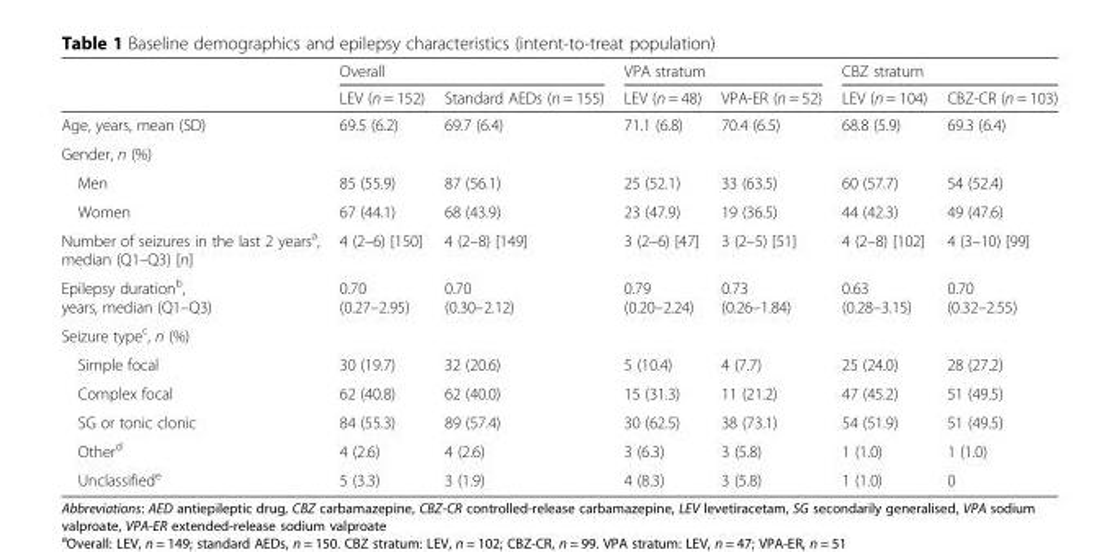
<table><thead><tr><td rowspan="2"></td><td colspan="2">Overall</td><td colspan="2">VPA stratum</td><td colspan="2">CBZ stratum</td></tr><tr><td>LEV (n = 152)</td><td>Standard AEDs (n = 155)</td><td>LEV (n = 48)</td><td>VPA-ER (n = 52)</td><td>LEV (n = 104)</td><td>CBZ-CR (n = 103)</td></tr></thead><tbody><tr><td>Age, years, mean (SD)</td><td>69.5 (6.2)</td><td>69.7 (6.4)</td><td>71.1 (6.8)</td><td>70.4 (6.5)</td><td>68.8 (5.9)</td><td>69.3 (6.4)</td></tr><tr><td colspan="7">Gender, n (%)</td></tr><tr><td>Men</td><td>85 (55.9)</td><td>87 (56.1)</td><td>25 (52.1)</td><td>33 (63.5)</td><td>60 (57.7)</td><td>54 (52.4)</td></tr><tr><td>Women</td><td>67 (44.1)</td><td>68 (43.9)</td><td>23 (47.9)</td><td>19 (36.5)</td><td>44 (42.3)</td><td>49 (47.6)</td></tr><tr><td>Number of seizures in the last 2 years<sup>a</sup>, median (Q1–Q3) [n]</td><td>4 (2–6) [150]</td><td>4 (2–8) [149]</td><td>3 (2–6) [47]</td><td>3 (2–5) [51]</td><td>4 (2–8) [102]</td><td>4 (3–10) [99]</td></tr><tr><td>Epilepsy duration<sup>b</sup>, years, median (Q1–Q3)</td><td>0.70 (0.27–2.95)</td><td>0.70 (0.30–2.12)</td><td>0.79 (0.20–2.24)</td><td>0.73 (0.26–1.84)</td><td>0.63 (0.28–3.15)</td><td>0.70 (0.32–2.55)</td></tr><tr><td colspan="7">Seizure type<sup>c</sup>, n (%)</td></tr><tr><td>Simple focal</td><td>30 (19.7)</td><td>32 (20.6)</td><td>5 (10.4)</td><td>4 (7.7)</td><td>25 (24.0)</td><td>28 (27.2)</td></tr><tr><td>Complex focal</td><td>62 (40.8)</td><td>62 (40.0)</td><td>15 (31.3)</td><td>11 (21.2)</td><td>47 (45.2)</td><td>51 (49.5)</td></tr><tr><td>SG or tonic clonic</td><td>84 (55.3)</td><td>89 (57.4)</td><td>30 (62.5)</td><td>38 (73.1)</td><td>54 (51.9)</td><td>51 (49.5)</td></tr><tr><td>Other<sup>d</sup></td><td>4 (2.6)</td><td>4 (2.6)</td><td>3 (6.3)</td><td>3 (5.8)</td><td>1 (1.0)</td><td>1 (1.0)</td></tr><tr><td>Unclassified<sup>e</sup></td><td>5 (3.3)</td><td>3 (1.9)</td><td>4 (8.3)</td><td>3 (5.8)</td><td>1 (1.0)</td><td>0</td></tr></tbody></table>